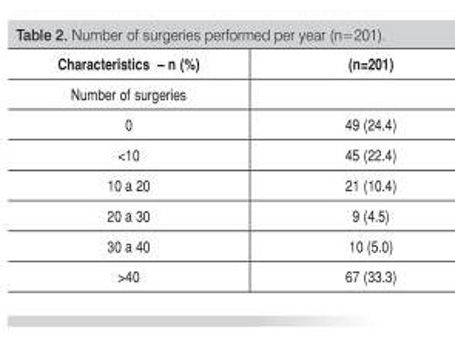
<table><thead><tr><td>Characteristics – n (%)</td><td>(n=201)</td></tr></thead><tbody><tr><td colspan="2">Number of surgeries</td></tr><tr><td>0</td><td>49 (24.4)</td></tr><tr><td>&lt;10</td><td>45 (22.4)</td></tr><tr><td>10 a 20</td><td>21 (10.4)</td></tr><tr><td>20 a 30</td><td>9 (4.5)</td></tr><tr><td>30 a 40</td><td>10 (5.0)</td></tr><tr><td>&gt;40</td><td>67 (33.3)</td></tr></tbody></table>